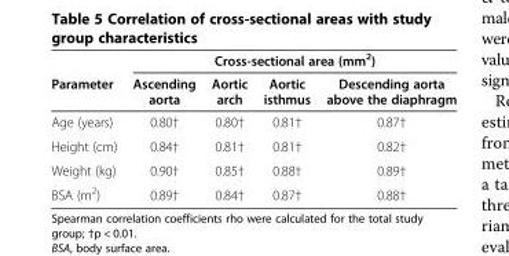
<table><thead><tr><td rowspan="2">Parameter</td><td colspan="4">Cross-sectional area (mm<sup>2</sup>)</td></tr><tr><td>Ascending aorta</td><td>Aortic arch</td><td>Aortic isthmus</td><td>Descending aorta above the diaphragm</td></tr></thead><tbody><tr><td>Age (years)</td><td>0.80†</td><td>0.80†</td><td>0.81†</td><td>0.87†</td></tr><tr><td>Height (cm)</td><td>0.84†</td><td>0.81†</td><td>0.81†</td><td>0.82†</td></tr><tr><td>Weight (kg)</td><td>0.90†</td><td>0.85†</td><td>0.88†</td><td>0.89†</td></tr><tr><td>BSA (m<sup>2</sup>)</td><td>0.89†</td><td>0.84†</td><td>0.87†</td><td>0.88†</td></tr></tbody></table>